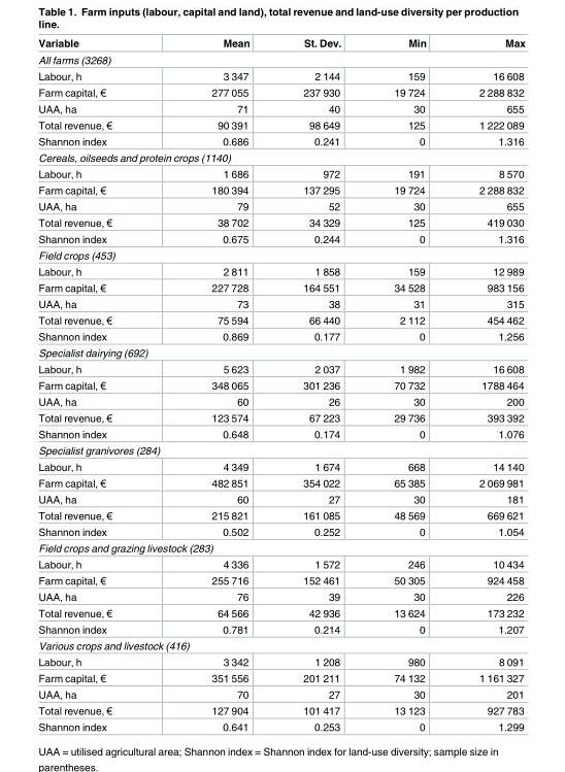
<table><thead><tr><td>Variable</td><td>Mean</td><td>St. Dev.</td><td>Min</td><td>Max</td></tr></thead><tbody><tr><td colspan="5">All farms (3268)</td></tr><tr><td>Labour, h</td><td>3 347</td><td>2 144</td><td>159</td><td>16 608</td></tr><tr><td>Farm capital, €</td><td>277 055</td><td>237 930</td><td>19 724</td><td>2 288 832</td></tr><tr><td>UAA, ha</td><td>71</td><td>40</td><td>30</td><td>655</td></tr><tr><td>Total revenue, €</td><td>90 391</td><td>98 649</td><td>125</td><td>1 222 089</td></tr><tr><td>Shannon index</td><td>0.686</td><td>0.241</td><td>0</td><td>1.316</td></tr><tr><td colspan="5">Cereals, oilseeds and protein crops (1140)</td></tr><tr><td>Labour, h</td><td>1 686</td><td>972</td><td>191</td><td>8 570</td></tr><tr><td>Farm capital, €</td><td>180 394</td><td>137 295</td><td>19 724</td><td>2 288 832</td></tr><tr><td>UAA, ha</td><td>79</td><td>52</td><td>30</td><td>655</td></tr><tr><td>Total revenue, €</td><td>38 702</td><td>34 329</td><td>125</td><td>419 030</td></tr><tr><td>Shannon index</td><td>0.675</td><td>0.244</td><td>0</td><td>1.316</td></tr><tr><td colspan="5">Field crops (453)</td></tr><tr><td>Labour, h</td><td>2 811</td><td>1 858</td><td>159</td><td>12 989</td></tr><tr><td>Farm capital, €</td><td>227 728</td><td>164 551</td><td>34 528</td><td>983 156</td></tr><tr><td>UAA, ha</td><td>73</td><td>38</td><td>31</td><td>315</td></tr><tr><td>Total revenue, €</td><td>75 594</td><td>66 440</td><td>2 112</td><td>454 462</td></tr><tr><td>Shannon index</td><td>0.869</td><td>0.177</td><td>0</td><td>1.256</td></tr><tr><td colspan="5">Specialist dairying (692)</td></tr><tr><td>Labour, h</td><td>5 623</td><td>2 037</td><td>1 982</td><td>16 608</td></tr><tr><td>Farm capital, €</td><td>348 065</td><td>301 236</td><td>70 732</td><td>1788 464</td></tr><tr><td>UAA, ha</td><td>60</td><td>26</td><td>30</td><td>200</td></tr><tr><td>Total revenue, €</td><td>123 574</td><td>67 223</td><td>29 736</td><td>393 392</td></tr><tr><td>Shannon index</td><td>0.648</td><td>0.174</td><td>0</td><td>1.076</td></tr><tr><td colspan="5">Specialist granivores (284)</td></tr><tr><td>Labour, h</td><td>4 349</td><td>1 674</td><td>668</td><td>14 140</td></tr><tr><td>Farm capital, €</td><td>482 851</td><td>354 022</td><td>65 385</td><td>2 069 981</td></tr><tr><td>UAA, ha</td><td>60</td><td>27</td><td>30</td><td>181</td></tr><tr><td>Total revenue, €</td><td>215 821</td><td>161 085</td><td>48 569</td><td>669 621</td></tr><tr><td>Shannon index</td><td>0.502</td><td>0.252</td><td>0</td><td>1.054</td></tr><tr><td colspan="5">Field crops and grazing livestock (283)</td></tr><tr><td>Labour, h</td><td>4 336</td><td>1 572</td><td>246</td><td>10 434</td></tr><tr><td>Farm capital, €</td><td>255 716</td><td>152 461</td><td>50 305</td><td>924 458</td></tr><tr><td>UAA, ha</td><td>76</td><td>39</td><td>30</td><td>226</td></tr><tr><td>Total revenue, €</td><td>64 566</td><td>42 936</td><td>13 624</td><td>173 232</td></tr><tr><td>Shannon index</td><td>0.781</td><td>0.214</td><td>0</td><td>1.207</td></tr><tr><td colspan="5">Various crops and livestock (416)</td></tr><tr><td>Labour, h</td><td>3 342</td><td>1 208</td><td>980</td><td>8 091</td></tr><tr><td>Farm capital, €</td><td>351 556</td><td>201 211</td><td>74 132</td><td>1 161 327</td></tr><tr><td>UAA, ha</td><td>70</td><td>27</td><td>30</td><td>201</td></tr><tr><td>Total revenue, €</td><td>127 904</td><td>101 417</td><td>13 123</td><td>927 783</td></tr><tr><td>Shannon index</td><td>0.641</td><td>0.253</td><td>0</td><td>1.299</td></tr></tbody></table>